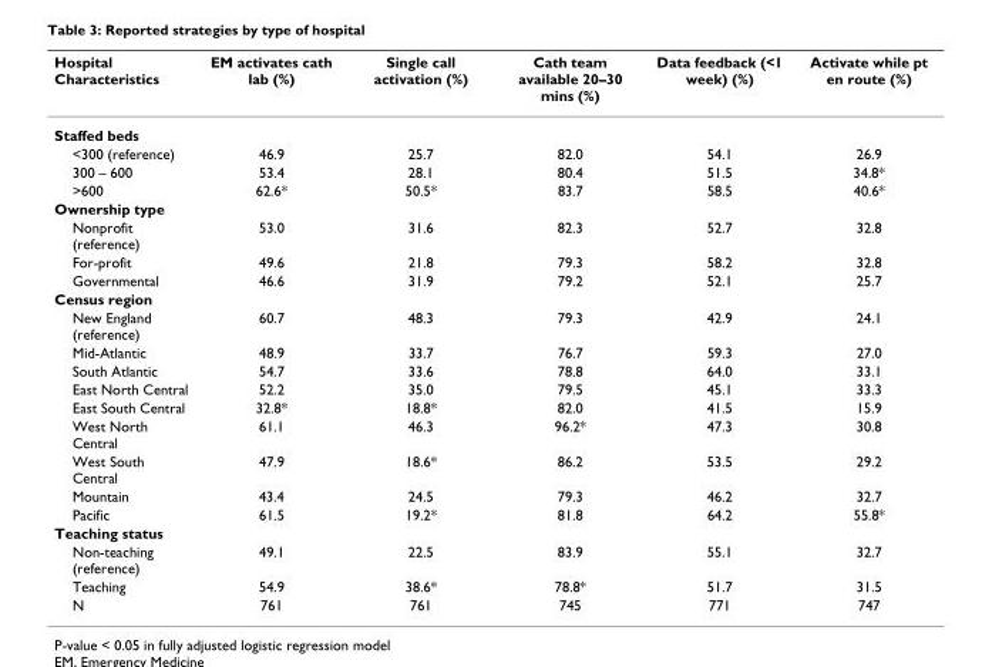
<table><thead><tr><td>Hospital Characteristics</td><td>EM activates cath lab (%)</td><td>Single call activation (%)</td><td>Cath team available 20–30 mins (%)</td><td>Data feedback (&lt;1 week) (%)</td><td>Activate while pt en route (%)</td></tr></thead><tbody><tr><td colspan="6">Staffed beds</td></tr><tr><td>&lt;300 (reference)</td><td>46.9</td><td>25.7</td><td>82.0</td><td>54.1</td><td>26.9</td></tr><tr><td>300 – 600</td><td>53.4</td><td>28.1</td><td>80.4</td><td>51.5</td><td>34.8*</td></tr><tr><td>&gt;600</td><td>62.6*</td><td>50.5*</td><td>83.7</td><td>58.5</td><td>40.6*</td></tr><tr><td colspan="6">Ownership type</td></tr><tr><td>Nonprofit (reference)</td><td>53.0</td><td>31.6</td><td>82.3</td><td>52.7</td><td>32.8</td></tr><tr><td>For-profit</td><td>49.6</td><td>21.8</td><td>79.3</td><td>58.2</td><td>32.8</td></tr><tr><td>Governmental</td><td>46.6</td><td>31.9</td><td>79.2</td><td>52.1</td><td>25.7</td></tr><tr><td colspan="6">Census region</td></tr><tr><td>New England (reference)</td><td>60.7</td><td>48.3</td><td>79.3</td><td>42.9</td><td>24.1</td></tr><tr><td>Mid-Atlantic</td><td>48.9</td><td>33.7</td><td>76.7</td><td>59.3</td><td>27.0</td></tr><tr><td>South Atlantic</td><td>54.7</td><td>33.6</td><td>78.8</td><td>64.0</td><td>33.1</td></tr><tr><td>East North Central</td><td>52.2</td><td>35.0</td><td>79.5</td><td>45.1</td><td>33.3</td></tr><tr><td>East South Central</td><td>32.8*</td><td>18.8*</td><td>82.0</td><td>41.5</td><td>15.9</td></tr><tr><td>West North Central</td><td>61.1</td><td>46.3</td><td>96.2*</td><td>47.3</td><td>30.8</td></tr><tr><td>West South Central</td><td>47.9</td><td>18.6*</td><td>86.2</td><td>53.5</td><td>29.2</td></tr><tr><td>Mountain</td><td>43.4</td><td>24.5</td><td>79.3</td><td>46.2</td><td>32.7</td></tr><tr><td>Pacific</td><td>61.5</td><td>19.2*</td><td>81.8</td><td>64.2</td><td>55.8*</td></tr><tr><td colspan="6">Teaching status</td></tr><tr><td>Non-teaching (reference)</td><td>49.1</td><td>22.5</td><td>83.9</td><td>55.1</td><td>32.7</td></tr><tr><td>Teaching</td><td>54.9</td><td>38.6*</td><td>78.8*</td><td>51.7</td><td>31.5</td></tr><tr><td>N</td><td>761</td><td>761</td><td>745</td><td>771</td><td>747</td></tr></tbody></table>